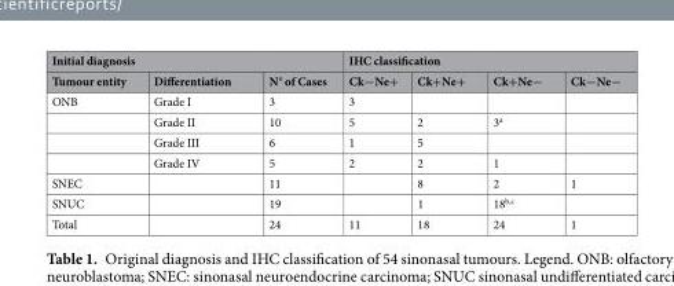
<table><thead><tr><td colspan="3">Initial diagnosis</td><td colspan="4">IHC classification</td></tr><tr><td>Tumour entity</td><td>Differentiation</td><td>N° of Cases</td><td>Ck−Ne+</td><td>Ck+Ne+</td><td>Ck+Ne−</td><td>Ck−Ne−</td></tr></thead><tbody><tr><td rowspan="4">ONB</td><td>Grade I</td><td>3</td><td>3</td><td></td><td></td><td></td></tr><tr><td>Grade II</td><td>10</td><td>5</td><td>2</td><td>3<sup>a</sup></td><td></td></tr><tr><td>Grade III</td><td>6</td><td>1</td><td>5</td><td></td><td></td></tr><tr><td>Grade IV</td><td>5</td><td>2</td><td>2</td><td>1</td><td></td></tr><tr><td>SNEC</td><td></td><td>11</td><td></td><td>8</td><td>2</td><td>1</td></tr><tr><td>SNUC</td><td></td><td>19</td><td></td><td>1</td><td>18<sup>b,c</sup></td><td></td></tr><tr><td>Total</td><td></td><td>24</td><td>11</td><td>18</td><td>24</td><td>1</td></tr></tbody></table>